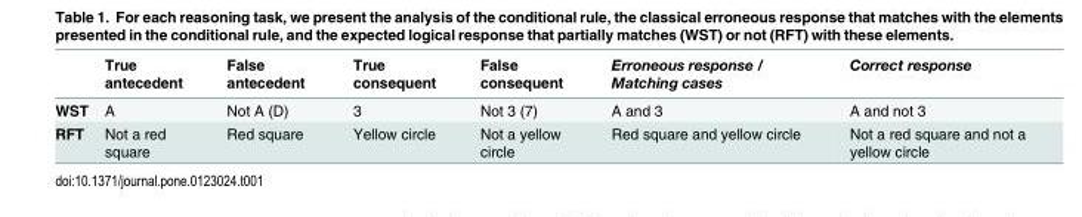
<table><thead><tr><td></td><td>True antecedent</td><td>False antecedent</td><td>True consequent</td><td>False consequent</td><td>Erroneous response / Matching cases</td><td>Correct response</td></tr></thead><tbody><tr><td>WST</td><td>A</td><td>Not A (D)</td><td>3</td><td>Not 3 (7)</td><td>A and 3</td><td>A and not 3</td></tr><tr><td>RFT</td><td>Not a red square</td><td>Red square</td><td>Yellow circle</td><td>Not a yellow circle</td><td>Red square and yellow circle</td><td>Not a red square and not a yellow circle</td></tr></tbody></table>